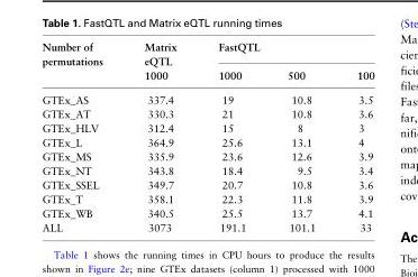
<table><thead><tr><td rowspan="2">Number of permutations</td><td rowspan="2">Matrix eQTL 1000</td><td colspan="3">FastQTL</td></tr><tr><td>1000</td><td>500</td><td>100</td></tr></thead><tbody><tr><td>GTEx_AS</td><td>337.4</td><td>19</td><td>10.8</td><td>3.5</td></tr><tr><td>GTEx_AT</td><td>330.3</td><td>21</td><td>10.8</td><td>3.6</td></tr><tr><td>GTEx_HLV</td><td>312.4</td><td>15</td><td>8</td><td>3</td></tr><tr><td>GTEx_L</td><td>364.9</td><td>25.6</td><td>13.1</td><td>4</td></tr><tr><td>GTEx_MS</td><td>335.9</td><td>23.6</td><td>12.6</td><td>3.9</td></tr><tr><td>GTEx_NT</td><td>343.8</td><td>18.4</td><td>9.5</td><td>3.4</td></tr><tr><td>GTEx_SSEL</td><td>349.7</td><td>20.7</td><td>10.8</td><td>3.6</td></tr><tr><td>GTEx_T</td><td>358.1</td><td>22.3</td><td>11.8</td><td>3.9</td></tr><tr><td>GTEx_WB</td><td>340.5</td><td>25.5</td><td>13.7</td><td>4.1</td></tr><tr><td>ALL</td><td>3073</td><td>191.1</td><td>101.1</td><td>33</td></tr></tbody></table>